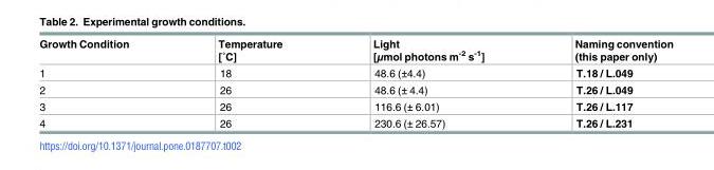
<table><thead><tr><td>Growth Condition</td><td>Temperature [˚C]</td><td>Light [μmol photons m<sup>-2</sup> s<sup>-1</sup>]</td><td>Naming convention (this paper only)</td></tr></thead><tbody><tr><td>1</td><td>18</td><td>48.6 (±4.4)</td><td>T.18 / L.049</td></tr><tr><td>2</td><td>26</td><td>48.6 (± 4.4)</td><td>T.26 / L.049</td></tr><tr><td>3</td><td>26</td><td>116.6 (± 6.01)</td><td>T.26 / L.117</td></tr><tr><td>4</td><td>26</td><td>230.6 (± 26.57)</td><td>T.26 / L.231</td></tr></tbody></table>